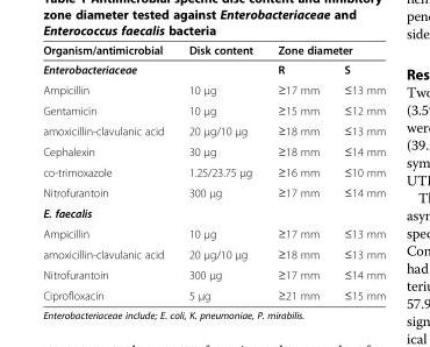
<table><thead><tr><td>Organism/antimicrobial</td><td>Disk content</td><td colspan="2">Zone diameter</td></tr><tr><td colspan="2">Enterobacteriaceae</td><td>R</td><td>S</td></tr></thead><tbody><tr><td>Ampicillin</td><td>10 μg</td><td>≥17 mm</td><td>≤13 mm</td></tr><tr><td>Gentamicin</td><td>10 μg</td><td>≥15 mm</td><td>≤12 mm</td></tr><tr><td>amoxicillin-clavulanic acid</td><td>20 μg/10 μg</td><td>≥18 mm</td><td>≤13 mm</td></tr><tr><td>Cephalexin</td><td>30 μg</td><td>≥18 mm</td><td>≤14 mm</td></tr><tr><td>co-trimoxazole</td><td>1.25/23.75 μg</td><td>≥16 mm</td><td>≤10 mm</td></tr><tr><td>Nitrofurantoin</td><td>300 μg</td><td>≥17 mm</td><td>≤14 mm</td></tr><tr><td colspan="4">E. faecalis</td></tr><tr><td>Ampicillin</td><td>10 μg</td><td>≥17 mm</td><td>≤13 mm</td></tr><tr><td>amoxicillin-clavulanic acid</td><td>20 μg/10 μg</td><td>≥18 mm</td><td>≤13 mm</td></tr><tr><td>Nitrofurantoin</td><td>300 μg</td><td>≥17 mm</td><td>≤14 mm</td></tr><tr><td>Ciprofloxacin</td><td>5 μg</td><td>≥21 mm</td><td>≤15 mm</td></tr></tbody></table>